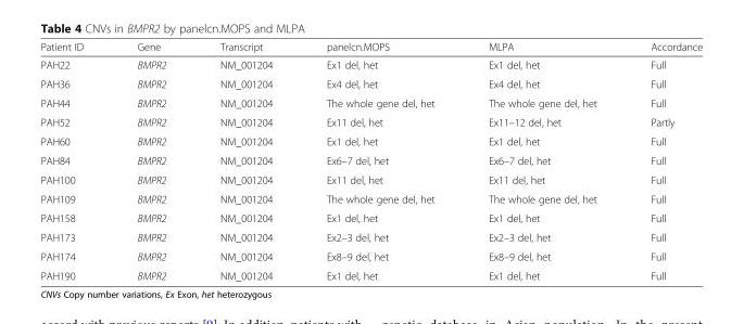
<table><thead><tr><td>Patient ID</td><td>Gene</td><td>Transcript</td><td>panelcn.MOPS</td><td>MLPA</td><td>Accordance</td></tr></thead><tbody><tr><td>PAH22</td><td>BMPR2</td><td>NM_001204</td><td>Ex1 del, het</td><td>Ex1 del, het</td><td>Full</td></tr><tr><td>PAH36</td><td>BMPR2</td><td>NM_001204</td><td>Ex4 del, het</td><td>Ex4 del, het</td><td>Full</td></tr><tr><td>PAH44</td><td>BMPR2</td><td>NM_001204</td><td>The whole gene del, het</td><td>The whole gene del, het</td><td>Full</td></tr><tr><td>PAH52</td><td>BMPR2</td><td>NM_001204</td><td>Ex11 del, het</td><td>Ex11–12 del, het</td><td>Partly</td></tr><tr><td>PAH60</td><td>BMPR2</td><td>NM_001204</td><td>Ex1 del, het</td><td>Ex1 del, het</td><td>Full</td></tr><tr><td>PAH84</td><td>BMPR2</td><td>NM_001204</td><td>Ex6–7 del, het</td><td>Ex6–7 del, het</td><td>Full</td></tr><tr><td>PAH100</td><td>BMPR2</td><td>NM_001204</td><td>Ex11 del, het</td><td>Ex11 del, het</td><td>Full</td></tr><tr><td>PAH109</td><td>BMPR2</td><td>NM_001204</td><td>The whole gene del, het</td><td>The whole gene del, het</td><td>Full</td></tr><tr><td>PAH158</td><td>BMPR2</td><td>NM_001204</td><td>Ex1 del, het</td><td>Ex1 del, het</td><td>Full</td></tr><tr><td>PAH173</td><td>BMPR2</td><td>NM_001204</td><td>Ex2–3 del, het</td><td>Ex2–3 del, het</td><td>Full</td></tr><tr><td>PAH174</td><td>BMPR2</td><td>NM_001204</td><td>Ex8–9 del, het</td><td>Ex8–9 del, het</td><td>Full</td></tr><tr><td>PAH190</td><td>BMPR2</td><td>NM_001204</td><td>Ex1 del, het</td><td>Ex1 del, het</td><td>Full</td></tr></tbody></table>